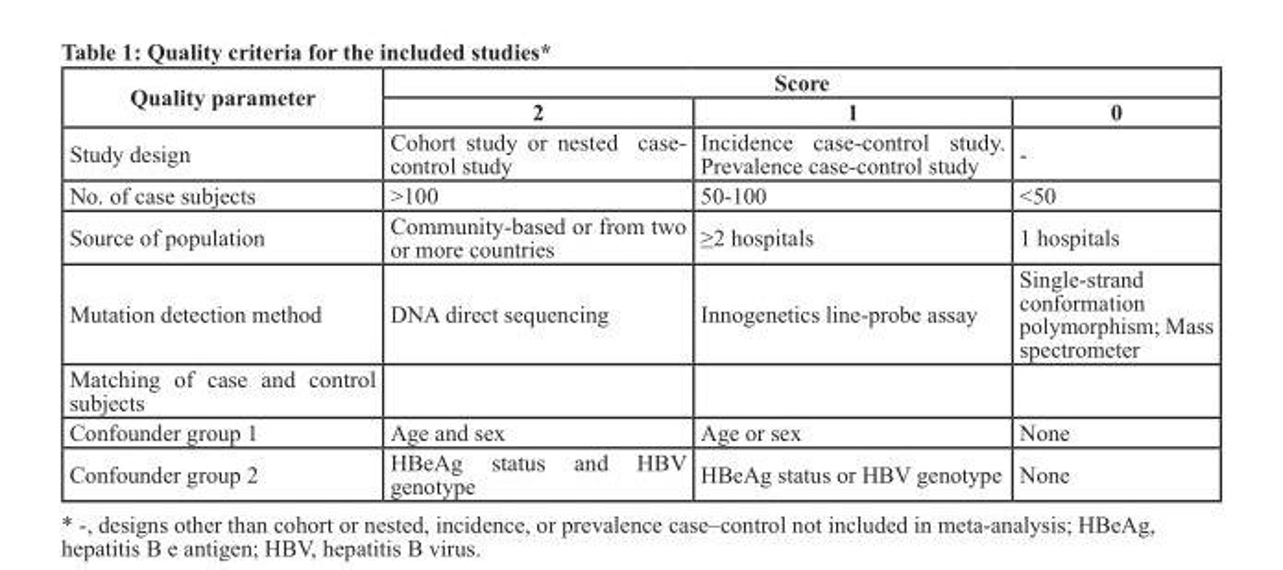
<table><thead><tr><td rowspan="2">Quality parameter</td><td colspan="3">Score</td></tr><tr><td>2</td><td>1</td><td>0</td></tr></thead><tbody><tr><td>Study design</td><td>Cohort study or nested case- control study</td><td>Incidence case-control study. Prevalence case-control study</td><td>-</td></tr><tr><td>No. of case subjects</td><td>&gt;100</td><td>50-100</td><td>&lt;50</td></tr><tr><td>Source of population</td><td>Community-based or from two or more countries</td><td>≥2 hospitals</td><td>1 hospitals</td></tr><tr><td>Mutation detection method</td><td>DNA direct sequencing</td><td>Innogenetics line-probe assay</td><td>Single-strand conformation polymorphism; Mass spectrometer</td></tr><tr><td colspan="4">Matching of case and control subjects</td></tr><tr><td>Confounder group 1</td><td>Age and sex</td><td>Age or sex</td><td>None</td></tr><tr><td>Confounder group 2</td><td>HBeAg status and HBV genotype</td><td>HBeAg status or HBV genotype</td><td>None</td></tr></tbody></table>